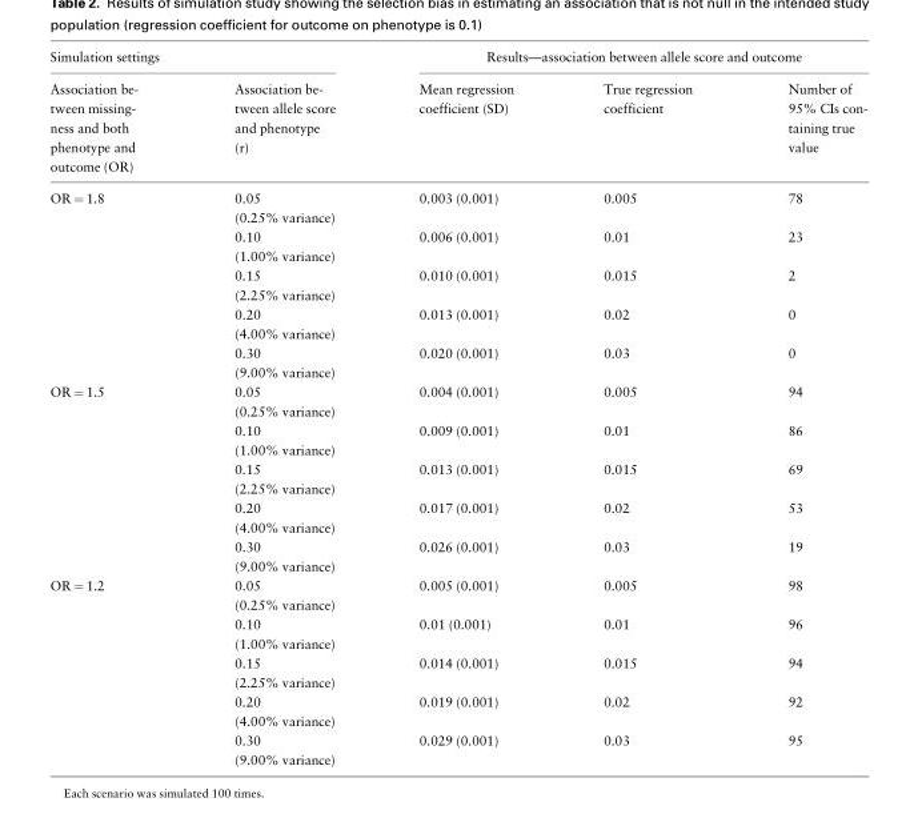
<table><thead><tr><td colspan="2">Simulation settings</td><td colspan="3">Results—association between allele score and outcome</td></tr><tr><td>Association be- tween missing- ness and both phenotype and outcome (OR)</td><td>Association be- tween allele score and phenotype (r)</td><td>Mean regression coefficient (SD)</td><td>True regression coefficient</td><td>Number of 95% CIs con- taining true value</td></tr></thead><tbody><tr><td rowspan="10">OR = 1.8</td><td>0.05</td><td rowspan="2">0.003 (0.001)</td><td rowspan="2">0.005</td><td rowspan="2">78</td></tr><tr><td>(0.25% variance)</td></tr><tr><td>0.10</td><td rowspan="2">0.006 (0.001)</td><td rowspan="2">0.01</td><td rowspan="2">23</td></tr><tr><td>(1.00% variance)</td></tr><tr><td>0.15</td><td rowspan="2">0.010 (0.001)</td><td rowspan="2">0.015</td><td rowspan="2">2</td></tr><tr><td>(2.25% variance)</td></tr><tr><td>0.20</td><td rowspan="2">0.013 (0.001)</td><td rowspan="2">0.02</td><td rowspan="2">0</td></tr><tr><td>(4.00% variance)</td></tr><tr><td>0.30</td><td rowspan="2">0.020 (0.001)</td><td rowspan="2">0.03</td><td rowspan="2">0</td></tr><tr><td>(9.00% variance)</td></tr><tr><td rowspan="10">OR = 1.5</td><td>0.05</td><td rowspan="2">0.004 (0.001)</td><td rowspan="2">0.005</td><td rowspan="2">94</td></tr><tr><td>(0.25% variance)</td></tr><tr><td>0.10</td><td rowspan="2">0.009 (0.001)</td><td rowspan="2">0.01</td><td rowspan="2">86</td></tr><tr><td>(1.00% variance)</td></tr><tr><td>0.15</td><td rowspan="2">0.013 (0.001)</td><td rowspan="2">0.015</td><td rowspan="2">69</td></tr><tr><td>(2.25% variance)</td></tr><tr><td>0.20</td><td rowspan="2">0.017 (0.001)</td><td rowspan="2">0.02</td><td rowspan="2">53</td></tr><tr><td>(4.00% variance)</td></tr><tr><td>0.30</td><td rowspan="2">0.026 (0.001)</td><td rowspan="2">0.03</td><td rowspan="2">19</td></tr><tr><td>(9.00% variance)</td></tr><tr><td rowspan="10">OR = 1.2</td><td>0.05</td><td rowspan="2">0.005 (0.001)</td><td rowspan="2">0.005</td><td rowspan="2">98</td></tr><tr><td>(0.25% variance)</td></tr><tr><td>0.10</td><td rowspan="2">0.01 (0.001)</td><td rowspan="2">0.01</td><td rowspan="2">96</td></tr><tr><td>(1.00% variance)</td></tr><tr><td>0.15</td><td rowspan="2">0.014 (0.001)</td><td rowspan="2">0.015</td><td rowspan="2">94</td></tr><tr><td>(2.25% variance)</td></tr><tr><td>0.20</td><td rowspan="2">0.019 (0.001)</td><td rowspan="2">0.02</td><td rowspan="2">92</td></tr><tr><td>(4.00% variance)</td></tr><tr><td>0.30</td><td rowspan="2">0.029 (0.001)</td><td rowspan="2">0.03</td><td rowspan="2">95</td></tr><tr><td>(9.00% variance)</td></tr></tbody></table>